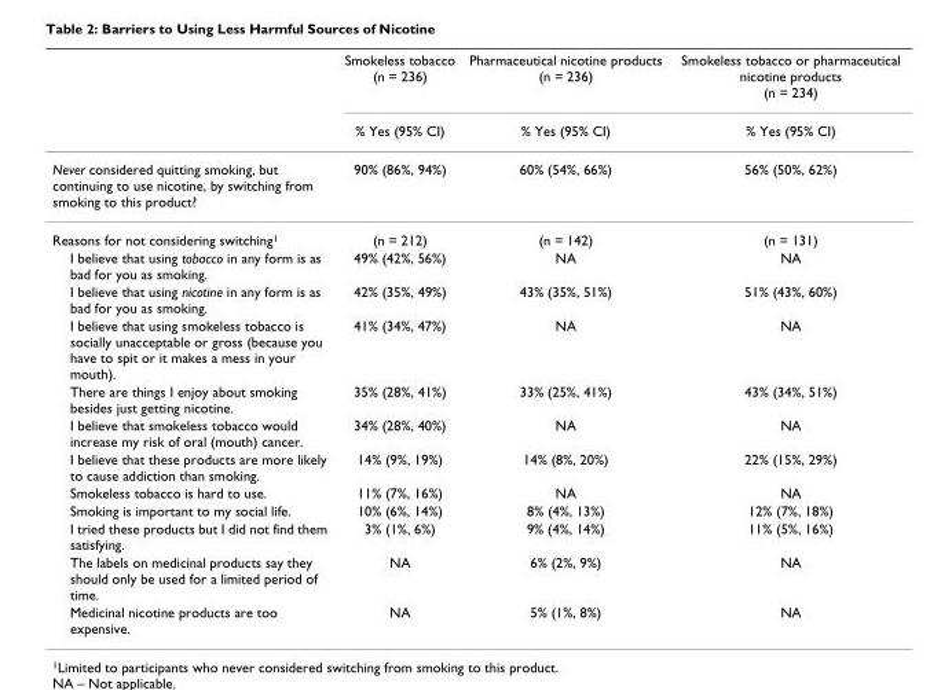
<table><thead><tr><td rowspan="2"></td><td rowspan="2">Smokeless tobacco (n = 236) % Yes (95% CI)</td><td rowspan="2">Pharmaceutical nicotine products (n = 236) % Yes (95% CI)</td><td rowspan="2">Smokeless tobacco or pharmaceutical nicotine products (n = 234) % Yes (95% CI)</td></tr><tr></tr></thead><tbody><tr><td>Never considered quitting smoking, but continuing to use nicotine, by switching from smoking to this product?</td><td>90% (86%, 94%)</td><td>60% (54%, 66%)</td><td>56% (50%, 62%)</td></tr><tr><td>Reasons for not considering switching<sup>1</sup></td><td>(n = 212)</td><td>(n = 142)</td><td>(n = 131)</td></tr><tr><td>I believe that using tobacco in any form is as bad for you as smoking.</td><td>49% (42%, 56%)</td><td>NA</td><td>NA</td></tr><tr><td>I believe that using nicotine in any form is as bad for you as smoking.</td><td>42% (35%, 49%)</td><td>43% (35%, 51%)</td><td>51% (43%, 60%)</td></tr><tr><td>I believe that using smokeless tobacco is socially unacceptable or gross (because you have to spit or it makes a mess in your mouth).</td><td>41% (34%, 47%)</td><td>NA</td><td>NA</td></tr><tr><td>There are things I enjoy about smoking besides just getting nicotine.</td><td>35% (28%, 41%)</td><td>33% (25%, 41%)</td><td>43% (34%, 51%)</td></tr><tr><td>I believe that smokeless tobacco would increase my risk of oral (mouth) cancer.</td><td>34% (28%, 40%)</td><td>NA</td><td>NA</td></tr><tr><td>I believe that these products are more likely to cause addiction than smoking.</td><td>14% (9%, 19%)</td><td>14% (8%, 20%)</td><td>22% (15%, 29%)</td></tr><tr><td>Smokeless tobacco is hard to use.</td><td>11% (7%, 16%)</td><td>NA</td><td>NA</td></tr><tr><td>Smoking is important to my social life.</td><td>10% (6%, 14%)</td><td>8% (4%, 13%)</td><td>12% (7%, 18%)</td></tr><tr><td>I tried these products but I did not find them satisfying.</td><td>3% (1%, 6%)</td><td>9% (4%, 14%)</td><td>11% (5%, 16%)</td></tr><tr><td>The labels on medicinal products say they should only be used for a limited period of time.</td><td>NA</td><td>6% (2%, 9%)</td><td>NA</td></tr><tr><td>Medicinal nicotine products are too expensive.</td><td>NA</td><td>5% (1%, 8%)</td><td>NA</td></tr></tbody></table>